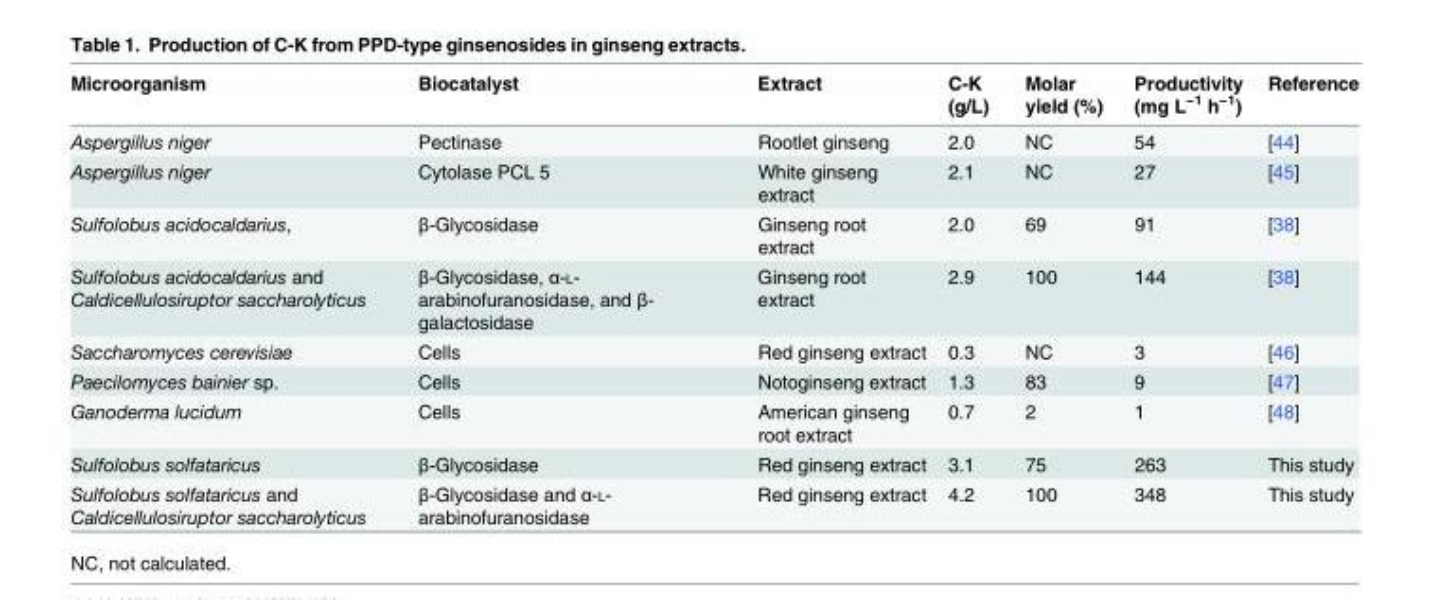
<table><thead><tr><td>Microorganism</td><td>Biocatalyst</td><td>Extract</td><td>C-K (g/L)</td><td>Molar yield (%)</td><td>Productivity (mg L<sup>−1</sup> h<sup>−1</sup>)</td><td>Reference</td></tr></thead><tbody><tr><td>Aspergillus niger</td><td>Pectinase</td><td>Rootlet ginseng</td><td>2.0</td><td>NC</td><td>54</td><td>[44]</td></tr><tr><td>Aspergillus niger</td><td>Cytolase PCL 5</td><td>White ginseng extract</td><td>2.1</td><td>NC</td><td>27</td><td>[45]</td></tr><tr><td>Sulfolobus acidocaldarius,</td><td>β-Glycosidase</td><td>Ginseng root extract</td><td>2.0</td><td>69</td><td>91</td><td>[38]</td></tr><tr><td>Sulfolobus acidocaldarius and Caldicellulosiruptor saccharolyticus</td><td>β-Glycosidase, α-L- arabinofuranosidase, and β- galactosidase</td><td>Ginseng root extract</td><td>2.9</td><td>100</td><td>144</td><td>[38]</td></tr><tr><td>Saccharomyces cerevisiae</td><td>Cells</td><td>Red ginseng extract</td><td>0.3</td><td>NC</td><td>3</td><td>[46]</td></tr><tr><td>Paecilomyces bainier sp.</td><td>Cells</td><td>Notoginseng extract</td><td>1.3</td><td>83</td><td>9</td><td>[47]</td></tr><tr><td>Ganoderma lucidum</td><td>Cells</td><td>American ginseng root extract</td><td>0.7</td><td>2</td><td>1</td><td>[48]</td></tr><tr><td>Sulfolobus solfataricus</td><td>β-Glycosidase</td><td>Red ginseng extract</td><td>3.1</td><td>75</td><td>263</td><td>This study</td></tr><tr><td>Sulfolobus solfataricus and Caldicellulosiruptor saccharolyticus</td><td>β-Glycosidase and α-L- arabinofuranosidase</td><td>Red ginseng extract</td><td>4.2</td><td>100</td><td>348</td><td>This study</td></tr></tbody></table>